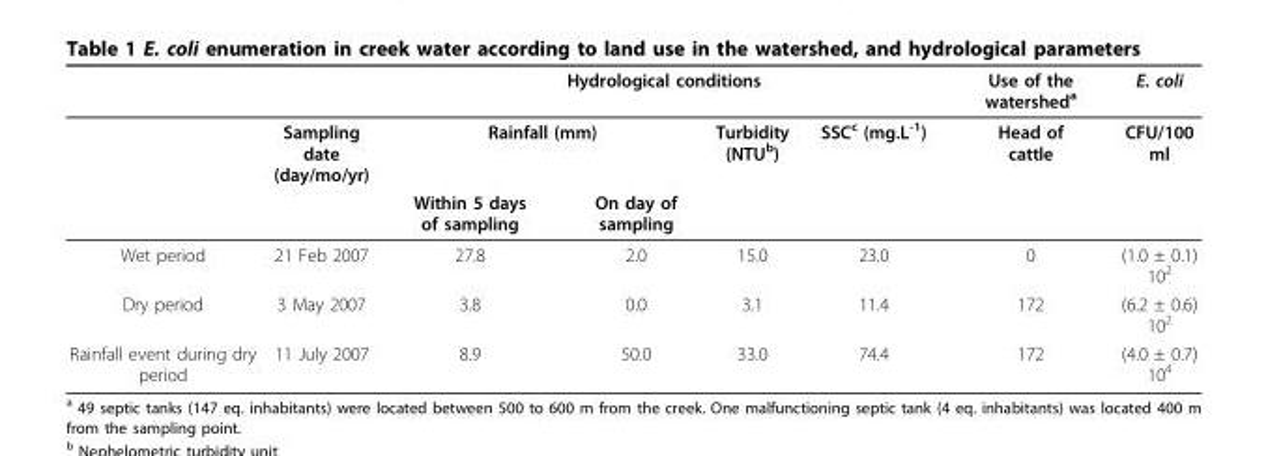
<table><thead><tr><td rowspan="3"></td><td rowspan="3">Sampling date (day/mo/yr)</td><td colspan="4">Hydrological conditions</td><td rowspan="3">Use of the watersheda Head of cattle</td><td rowspan="3">E. coli CFU/100 ml</td></tr><tr><td colspan="2">Rainfall (mm)</td><td rowspan="2">Turbidity (NTUb)</td><td rowspan="2">SSCc (mg.L-1)</td></tr><tr><td>Within 5 days of sampling</td><td>On day of sampling</td></tr></thead><tbody><tr><td>Wet period</td><td>21 Feb 2007</td><td>27.8</td><td>2.0</td><td>15.0</td><td>23.0</td><td>0</td><td>(1.0 ± 0.1) 10<sup>2</sup></td></tr><tr><td>Dry period</td><td>3 May 2007</td><td>3.8</td><td>0.0</td><td>3.1</td><td>11.4</td><td>172</td><td>(6.2 ± 0.6) 10<sup>2</sup></td></tr><tr><td>Rainfall event during dry period</td><td>11 July 2007</td><td>8.9</td><td>50.0</td><td>33.0</td><td>74.4</td><td>172</td><td>(4.0 ± 0.7) 10<sup>4</sup></td></tr></tbody></table>